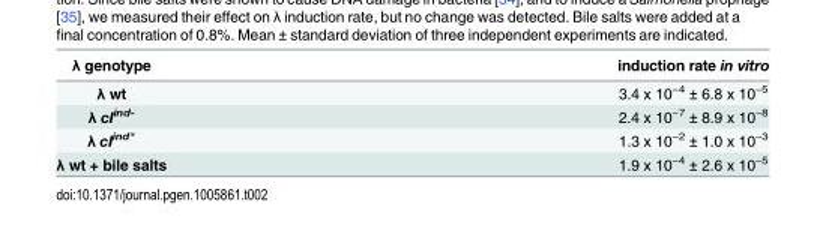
<table><thead><tr><td>λ genotype</td><td>induction rate in vitro</td></tr></thead><tbody><tr><td>λ wt</td><td>3.4 x 10<sup>−4</sup> ± 6.8 x 10<sup>−5</sup></td></tr><tr><td>λ cI<sup>ind-</sup></td><td>2.4 x 10<sup>−7</sup> ± 8.9 x 10<sup>−8</sup></td></tr><tr><td>λ cI<sup>ind*</sup></td><td>1.3 x 10<sup>−2</sup> ± 1.0 x 10<sup>−3</sup></td></tr><tr><td>λ wt + bile salts</td><td>1.9 x 10<sup>−4</sup> ± 2.6 x 10<sup>−5</sup></td></tr></tbody></table>